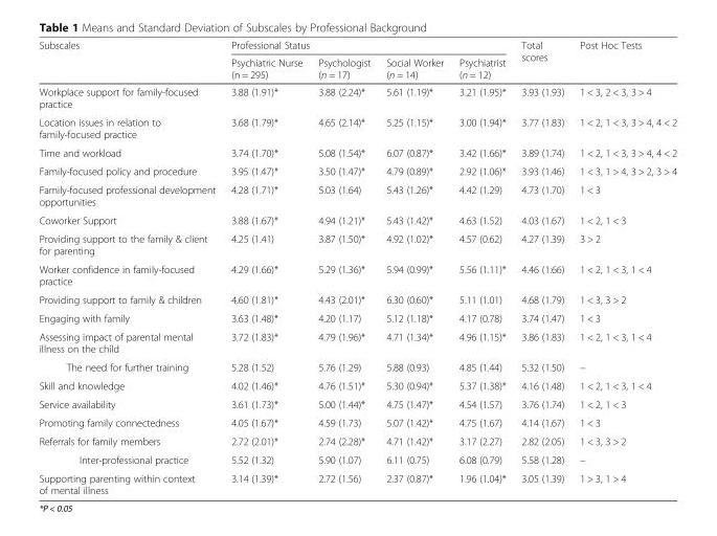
<table><thead><tr><td rowspan="2">Subscales</td><td colspan="4">Professional Status</td><td rowspan="2">Total scores</td><td rowspan="2">Post Hoc Tests</td></tr><tr><td>Psychiatric Nurse (n = 295)</td><td>Psychologist (n = 17)</td><td>Social Worker (n = 14)</td><td>Psychiatrist (n = 12)</td></tr></thead><tbody><tr><td>Workplace support for family-focused practice</td><td>3.88 (1.91)*</td><td>3.88 (2.24)*</td><td>5.61 (1.19)*</td><td>3.21 (1.95)*</td><td>3.93 (1.93)</td><td>1 &lt; 3, 2 &lt; 3, 3 &gt; 4</td></tr><tr><td>Location issues in relation to family-focused practice</td><td>3.68 (1.79)*</td><td>4.65 (2.14)*</td><td>5.25 (1.15)*</td><td>3.00 (1.94)*</td><td>3.77 (1.83)</td><td>1 &lt; 2, 1 &lt; 3, 3 &gt; 4, 4 &lt; 2</td></tr><tr><td>Time and workload</td><td>3.74 (1.70)*</td><td>5.08 (1.54)*</td><td>6.07 (0.87)*</td><td>3.42 (1.66)*</td><td>3.89 (1.74)</td><td>1 &lt; 2, 1 &lt; 3, 3 &gt; 4, 4 &lt; 2</td></tr><tr><td>Family-focused policy and procedure</td><td>3.95 (1.47)*</td><td>3.50 (1.47)*</td><td>4.79 (0.89)*</td><td>2.92 (1.06)*</td><td>3.93 (1.46)</td><td>1 &lt; 3, 1 &gt; 4, 3 &gt; 2, 3 &gt; 4</td></tr><tr><td>Family-focused professional development opportunities</td><td>4.28 (1.71)*</td><td>5.03 (1.64)</td><td>5.43 (1.26)*</td><td>4.42 (1.29)</td><td>4.73 (1.70)</td><td>1 &lt; 3</td></tr><tr><td>Coworker Support</td><td>3.88 (1.67)*</td><td>4.94 (1.21)*</td><td>5.43 (1.42)*</td><td>4.63 (1.52)</td><td>4.03 (1.67)</td><td>1 &lt; 2, 1 &lt; 3</td></tr><tr><td>Providing support to the family &amp; client for parenting</td><td>4.25 (1.41)</td><td>3.87 (1.50)*</td><td>4.92 (1.02)*</td><td>4.57 (0.62)</td><td>4.27 (1.39)</td><td>3 &gt; 2</td></tr><tr><td>Worker confidence in family-focused practice</td><td>4.29 (1.66)*</td><td>5.29 (1.36)*</td><td>5.94 (0.99)*</td><td>5.56 (1.11)*</td><td>4.46 (1.66)</td><td>1 &lt; 2, 1 &lt; 3, 1 &lt; 4</td></tr><tr><td>Providing support to family &amp; children</td><td>4.60 (1.81)*</td><td>4.43 (2.01)*</td><td>6.30 (0.60)*</td><td>5.11 (1.01)</td><td>4.68 (1.79)</td><td>1 &lt; 3, 3 &gt; 2</td></tr><tr><td>Engaging with family</td><td>3.63 (1.48)*</td><td>4.20 (1.17)</td><td>5.12 (1.18)*</td><td>4.17 (0.78)</td><td>3.74 (1.47)</td><td>1 &lt; 3</td></tr><tr><td>Assessing impact of parental mental illness on the child</td><td>3.72 (1.83)*</td><td>4.79 (1.96)*</td><td>4.71 (1.34)*</td><td>4.96 (1.15)*</td><td>3.86 (1.83)</td><td>1 &lt; 2, 1 &lt; 3, 1 &lt; 4</td></tr><tr><td>The need for further training</td><td>5.28 (1.52)</td><td>5.76 (1.29)</td><td>5.88 (0.93)</td><td>4.85 (1.44)</td><td>5.32 (1.50)</td><td>–</td></tr><tr><td>Skill and knowledge</td><td>4.02 (1.46)*</td><td>4.76 (1.51)*</td><td>5.30 (0.94)*</td><td>5.37 (1.38)*</td><td>4.16 (1.48)</td><td>1 &lt; 2, 1 &lt; 3, 1 &lt; 4</td></tr><tr><td>Service availability</td><td>3.61 (1.73)*</td><td>5.00 (1.44)*</td><td>4.75 (1.47)*</td><td>4.54 (1.57)</td><td>3.76 (1.74)</td><td>1 &lt; 2, 1 &lt; 3</td></tr><tr><td>Promoting family connectedness</td><td>4.05 (1.67)*</td><td>4.59 (1.73)</td><td>5.07 (1.42)*</td><td>4.75 (1.67)</td><td>4.14 (1.67)</td><td>1 &lt; 3</td></tr><tr><td>Referrals for family members</td><td>2.72 (2.01)*</td><td>2.74 (2.28)*</td><td>4.71 (1.42)*</td><td>3.17 (2.27)</td><td>2.82 (2.05)</td><td>1 &lt; 3, 3 &gt; 2</td></tr><tr><td>Inter-professional practice</td><td>5.52 (1.32)</td><td>5.90 (1.07)</td><td>6.11 (0.75)</td><td>6.08 (0.79)</td><td>5.58 (1.28)</td><td>–</td></tr><tr><td>Supporting parenting within context of mental illness</td><td>3.14 (1.39)*</td><td>2.72 (1.56)</td><td>2.37 (0.87)*</td><td>1.96 (1.04)*</td><td>3.05 (1.39)</td><td>1 &gt; 3, 1 &gt; 4</td></tr></tbody></table>